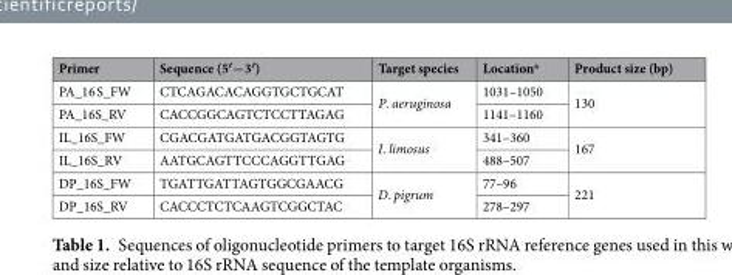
<table><thead><tr><td>Primer</td><td>Sequence (5′−3′)</td><td>Target species</td><td>Location<sup>a</sup></td><td>Product size (bp)</td></tr></thead><tbody><tr><td>PA_16 S_FW</td><td>CTCAGACACAGGTGCTGCAT</td><td rowspan="2">P. aeruginosa</td><td>1031–1050</td><td rowspan="2">130</td></tr><tr><td>PA_16S_RV</td><td>CACCGGCAGTCTCCTTAGAG</td><td>1141–1160</td></tr><tr><td>IL_16S_FW</td><td>CGACGATGATGACGGTAGTG</td><td rowspan="2">I. limosus</td><td>341–360</td><td rowspan="2">167</td></tr><tr><td>IL_16S_RV</td><td>AATGCAGTTCCCAGGTTGAG</td><td>488–507</td></tr><tr><td>DP_16S_FW</td><td>TGATTGATTAGTGGCGAACG</td><td rowspan="2">D. pigrum</td><td>77–96</td><td rowspan="2">221</td></tr><tr><td>DP_16S_RV</td><td>CACCCTCTCAAGTCGGCTAC</td><td>278–297</td></tr></tbody></table>